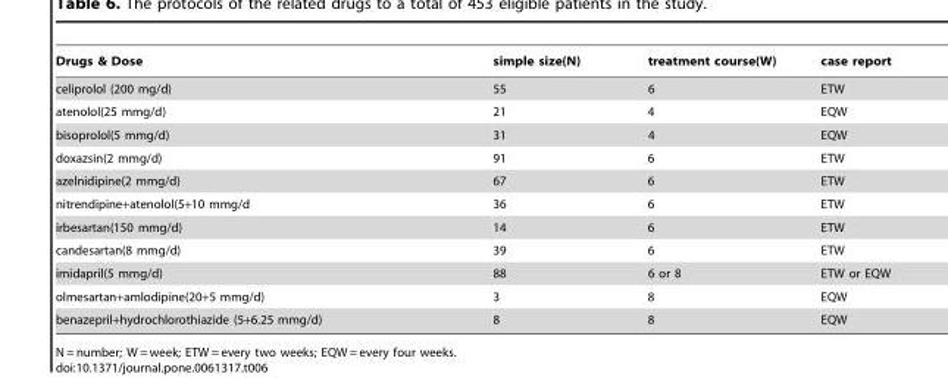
<table><thead><tr><td>Drugs &amp; Dose</td><td>simple size(N)</td><td>treatment course(W)</td><td>case report</td></tr></thead><tbody><tr><td>celiprolol (200 mg/d)</td><td>55</td><td>6</td><td>ETW</td></tr><tr><td>atenolol(25 mmg/d)</td><td>21</td><td>4</td><td>EQW</td></tr><tr><td>bisoprolol(5 mmg/d)</td><td>31</td><td>4</td><td>EQW</td></tr><tr><td>doxazsin(2 mmg/d)</td><td>91</td><td>6</td><td>ETW</td></tr><tr><td>azelnidipine(2 mmg/d)</td><td>67</td><td>6</td><td>ETW</td></tr><tr><td>nitrendipine+atenolol(5+10 mmg/d</td><td>36</td><td>6</td><td>ETW</td></tr><tr><td>irbesartan(150 mmg/d)</td><td>14</td><td>6</td><td>ETW</td></tr><tr><td>candesartan(8 mmg/d)</td><td>39</td><td>6</td><td>ETW</td></tr><tr><td>imidapril(5 mmg/d)</td><td>88</td><td>6 or 8</td><td>ETW or EQW</td></tr><tr><td>olmesartan+amlodipine(20+5 mmg/d)</td><td>3</td><td>8</td><td>EQW</td></tr><tr><td>benazepril+hydrochlorothiazide (5+6.25 mmg/d)</td><td>8</td><td>8</td><td>EQW</td></tr></tbody></table>